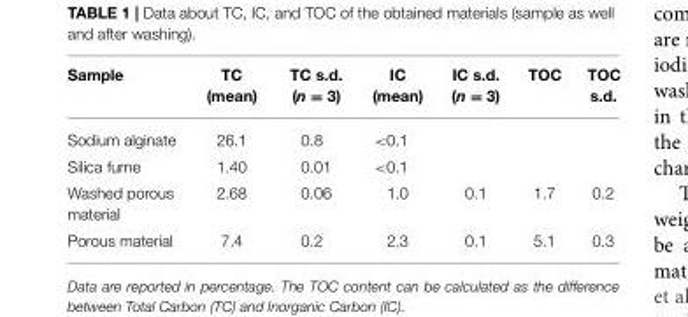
<table><thead><tr><td>Sample</td><td>TC (mean)</td><td>TC s.d. (n = 3)</td><td>IC (mean)</td><td>IC s.d. (n = 3)</td><td>TOC</td><td>TOC s.d.</td></tr></thead><tbody><tr><td>Sodium alginate</td><td>26.1</td><td>0.8</td><td>&lt;0.1</td><td></td><td></td><td></td></tr><tr><td>Silica fume</td><td>1.40</td><td>0.01</td><td>&lt;0.1</td><td></td><td></td><td></td></tr><tr><td>Washed porous material</td><td>2.68</td><td>0.06</td><td>1.0</td><td>0.1</td><td>1.7</td><td>0.2</td></tr><tr><td>Porous material</td><td>7.4</td><td>0.2</td><td>2.3</td><td>0.1</td><td>5.1</td><td>0.3</td></tr></tbody></table>